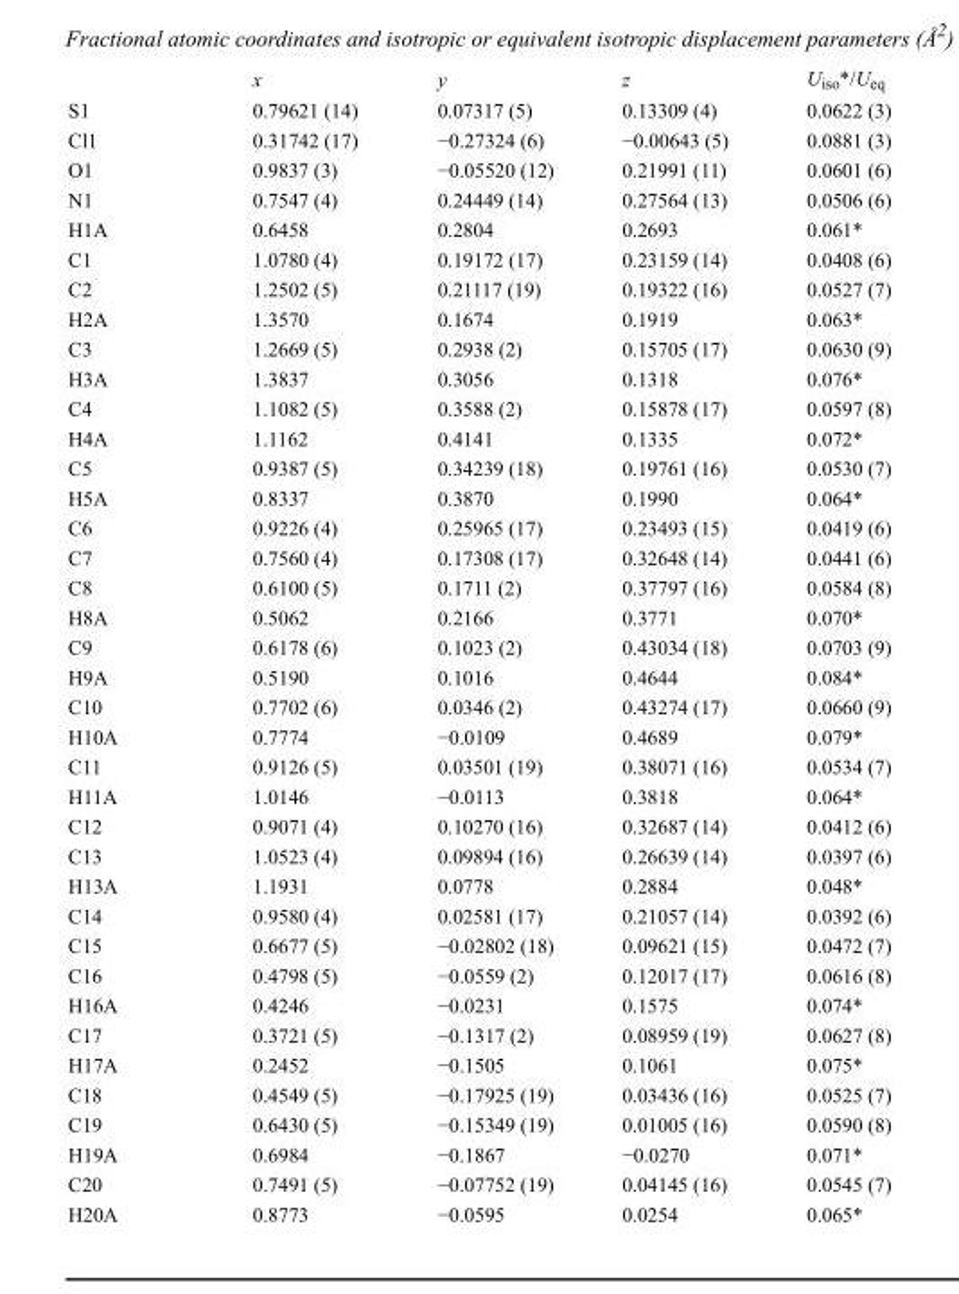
<table><thead><tr><td></td><td>x</td><td>y</td><td>z</td><td>U<sub>iso</sub>*/U<sub>eq</sub></td></tr></thead><tbody><tr><td>S1</td><td>0.79621 (14)</td><td>0.07317 (5)</td><td>0.13309 (4)</td><td>0.0622 (3)</td></tr><tr><td>Cl1</td><td>0.31742 (17)</td><td>−0.27324 (6)</td><td>−0.00643 (5)</td><td>0.0881 (3)</td></tr><tr><td>O1</td><td>0.9837 (3)</td><td>−0.05520 (12)</td><td>0.21991 (11)</td><td>0.0601 (6)</td></tr><tr><td>N1</td><td>0.7547 (4)</td><td>0.24449 (14)</td><td>0.27564 (13)</td><td>0.0506 (6)</td></tr><tr><td>H1A</td><td>0.6458</td><td>0.2804</td><td>0.2693</td><td>0.061*</td></tr><tr><td>C1</td><td>1.0780 (4)</td><td>0.19172 (17)</td><td>0.23159 (14)</td><td>0.0408 (6)</td></tr><tr><td>C2</td><td>1.2502 (5)</td><td>0.21117 (19)</td><td>0.19322 (16)</td><td>0.0527 (7)</td></tr><tr><td>H2A</td><td>1.3570</td><td>0.1674</td><td>0.1919</td><td>0.063*</td></tr><tr><td>C3</td><td>1.2669 (5)</td><td>0.2938 (2)</td><td>0.15705 (17)</td><td>0.0630 (9)</td></tr><tr><td>H3A</td><td>1.3837</td><td>0.3056</td><td>0.1318</td><td>0.076*</td></tr><tr><td>C4</td><td>1.1082 (5)</td><td>0.3588 (2)</td><td>0.15878 (17)</td><td>0.0597 (8)</td></tr><tr><td>H4A</td><td>1.1162</td><td>0.4141</td><td>0.1335</td><td>0.072*</td></tr><tr><td>C5</td><td>0.9387 (5)</td><td>0.34239 (18)</td><td>0.19761 (16)</td><td>0.0530 (7)</td></tr><tr><td>H5A</td><td>0.8337</td><td>0.3870</td><td>0.1990</td><td>0.064*</td></tr><tr><td>C6</td><td>0.9226 (4)</td><td>0.25965 (17)</td><td>0.23493 (15)</td><td>0.0419 (6)</td></tr><tr><td>C7</td><td>0.7560 (4)</td><td>0.17308 (17)</td><td>0.32648 (14)</td><td>0.0441 (6)</td></tr><tr><td>C8</td><td>0.6100 (5)</td><td>0.1711 (2)</td><td>0.37797 (16)</td><td>0.0584 (8)</td></tr><tr><td>H8A</td><td>0.5062</td><td>0.2166</td><td>0.3771</td><td>0.070*</td></tr><tr><td>C9</td><td>0.6178 (6)</td><td>0.1023 (2)</td><td>0.43034 (18)</td><td>0.0703 (9)</td></tr><tr><td>H9A</td><td>0.5190</td><td>0.1016</td><td>0.4644</td><td>0.084*</td></tr><tr><td>C10</td><td>0.7702 (6)</td><td>0.0346 (2)</td><td>0.43274 (17)</td><td>0.0660 (9)</td></tr><tr><td>H10A</td><td>0.7774</td><td>−0.0109</td><td>0.4689</td><td>0.079*</td></tr><tr><td>C11</td><td>0.9126 (5)</td><td>0.03501 (19)</td><td>0.38071 (16)</td><td>0.0534 (7)</td></tr><tr><td>H11A</td><td>1.0146</td><td>−0.0113</td><td>0.3818</td><td>0.064*</td></tr><tr><td>C12</td><td>0.9071 (4)</td><td>0.10270 (16)</td><td>0.32687 (14)</td><td>0.0412 (6)</td></tr><tr><td>C13</td><td>1.0523 (4)</td><td>0.09894 (16)</td><td>0.26639 (14)</td><td>0.0397 (6)</td></tr><tr><td>H13A</td><td>1.1931</td><td>0.0778</td><td>0.2884</td><td>0.048*</td></tr><tr><td>C14</td><td>0.9580 (4)</td><td>0.02581 (17)</td><td>0.21057 (14)</td><td>0.0392 (6)</td></tr><tr><td>C15</td><td>0.6677 (5)</td><td>−0.02802 (18)</td><td>0.09621 (15)</td><td>0.0472 (7)</td></tr><tr><td>C16</td><td>0.4798 (5)</td><td>−0.0559 (2)</td><td>0.12017 (17)</td><td>0.0616 (8)</td></tr><tr><td>H16A</td><td>0.4246</td><td>−0.0231</td><td>0.1575</td><td>0.074*</td></tr><tr><td>C17</td><td>0.3721 (5)</td><td>−0.1317 (2)</td><td>0.08959 (19)</td><td>0.0627 (8)</td></tr><tr><td>H17A</td><td>0.2452</td><td>−0.1505</td><td>0.1061</td><td>0.075*</td></tr><tr><td>C18</td><td>0.4549 (5)</td><td>−0.17925 (19)</td><td>0.03436 (16)</td><td>0.0525 (7)</td></tr><tr><td>C19</td><td>0.6430 (5)</td><td>−0.15349 (19)</td><td>0.01005 (16)</td><td>0.0590 (8)</td></tr><tr><td>H19A</td><td>0.6984</td><td>−0.1867</td><td>−0.0270</td><td>0.071*</td></tr><tr><td>C20</td><td>0.7491 (5)</td><td>−0.07752 (19)</td><td>0.04145 (16)</td><td>0.0545 (7)</td></tr><tr><td>H20A</td><td>0.8773</td><td>−0.0595</td><td>0.0254</td><td>0.065*</td></tr></tbody></table>